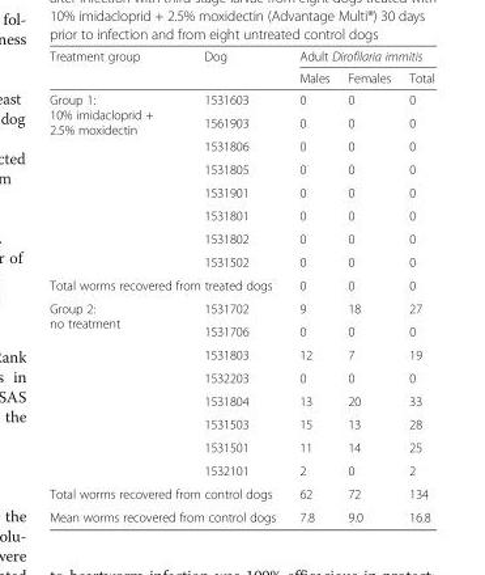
<table><thead><tr><td rowspan="2">Treatment group</td><td rowspan="2">Dog</td><td colspan="3">Adult Dirofilaria immitis</td></tr><tr><td>Males</td><td>Females</td><td>Total</td></tr></thead><tbody><tr><td rowspan="8">Group 1: 10% imidacloprid + 2.5% moxidectin</td><td>1531603</td><td>0</td><td>0</td><td>0</td></tr><tr><td>1561903</td><td>0</td><td>0</td><td>0</td></tr><tr><td>1531806</td><td>0</td><td>0</td><td>0</td></tr><tr><td>1531805</td><td>0</td><td>0</td><td>0</td></tr><tr><td>1531901</td><td>0</td><td>0</td><td>0</td></tr><tr><td>1531801</td><td>0</td><td>0</td><td>0</td></tr><tr><td>1531802</td><td>0</td><td>0</td><td>0</td></tr><tr><td>1531502</td><td>0</td><td>0</td><td>0</td></tr><tr><td colspan="2">Total worms recovered from treated dogs</td><td>0</td><td>0</td><td>0</td></tr><tr><td rowspan="8">Group 2: no treatment</td><td>1531702</td><td>9</td><td>18</td><td>27</td></tr><tr><td>1531706</td><td>0</td><td>0</td><td>0</td></tr><tr><td>1531803</td><td>12</td><td>7</td><td>19</td></tr><tr><td>1532203</td><td>0</td><td>0</td><td>0</td></tr><tr><td>1531804</td><td>13</td><td>20</td><td>33</td></tr><tr><td>1531503</td><td>15</td><td>13</td><td>28</td></tr><tr><td>1531501</td><td>11</td><td>14</td><td>25</td></tr><tr><td>1532101</td><td>2</td><td>0</td><td>2</td></tr><tr><td colspan="2">Total worms recovered from control dogs</td><td>62</td><td>72</td><td>134</td></tr><tr><td colspan="2">Mean worms recovered from control dogs</td><td>7.8</td><td>9.0</td><td>16.8</td></tr></tbody></table>